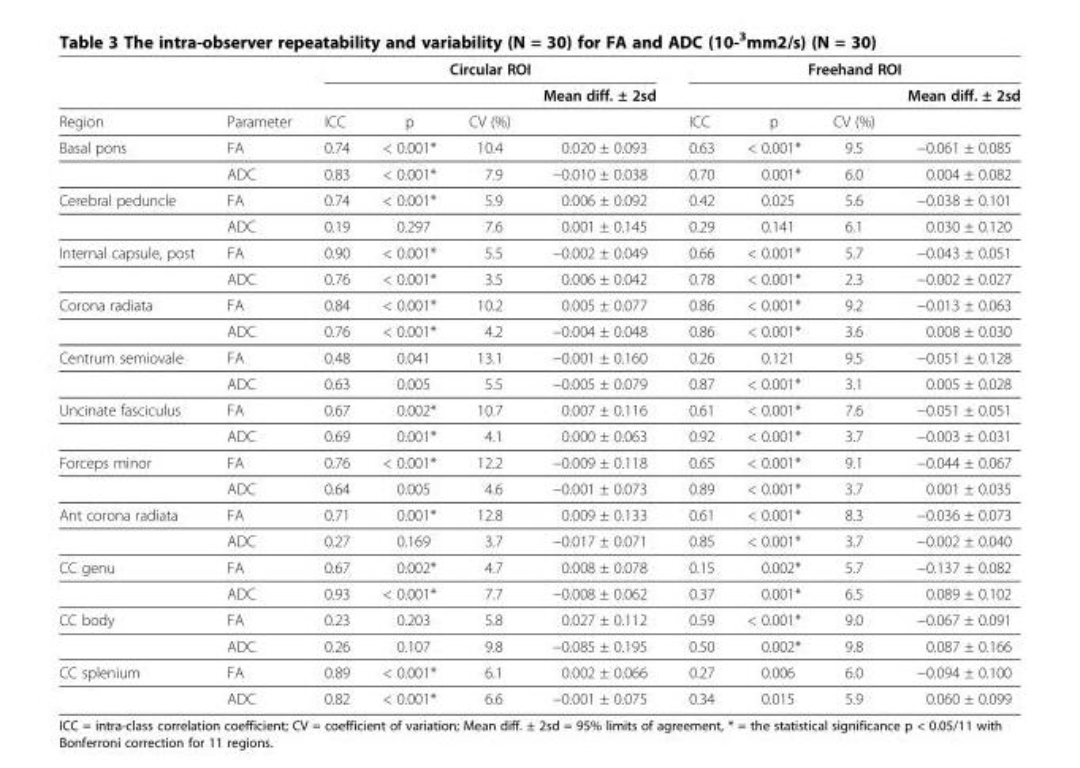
<table><thead><tr><td rowspan="2"></td><td rowspan="2"></td><td colspan="4">Circular ROI</td><td colspan="4">Freehand ROI</td></tr><tr><td></td><td></td><td></td><td>Mean diff. ± 2sd</td><td></td><td></td><td></td><td>Mean diff. ± 2sd</td></tr></thead><tbody><tr><td>Region</td><td>Parameter</td><td>ICC</td><td>p</td><td>CV (%)</td><td></td><td>ICC</td><td>p</td><td>CV (%)</td><td></td></tr><tr><td rowspan="2">Basal pons</td><td>FA</td><td>0.74</td><td>&lt; 0.001*</td><td>10.4</td><td>0.020 ± 0.093</td><td>0.63</td><td>&lt; 0.001*</td><td>9.5</td><td>−0.061 ± 0.085</td></tr><tr><td>ADC</td><td>0.83</td><td>&lt; 0.001*</td><td>7.9</td><td>−0.010 ± 0.038</td><td>0.70</td><td>0.001*</td><td>6.0</td><td>0.004 ± 0.082</td></tr><tr><td rowspan="2">Cerebral peduncle</td><td>FA</td><td>0.74</td><td>&lt; 0.001*</td><td>5.9</td><td>0.006 ± 0.092</td><td>0.42</td><td>0.025</td><td>5.6</td><td>−0.038 ± 0.101</td></tr><tr><td>ADC</td><td>0.19</td><td>0.297</td><td>7.6</td><td>0.001 ± 0.145</td><td>0.29</td><td>0.141</td><td>6.1</td><td>0.030 ± 0.120</td></tr><tr><td rowspan="2">Internal capsule, post</td><td>FA</td><td>0.90</td><td>&lt; 0.001*</td><td>5.5</td><td>−0.002 ± 0.049</td><td>0.66</td><td>&lt; 0.001*</td><td>5.7</td><td>−0.043 ± 0.051</td></tr><tr><td>ADC</td><td>0.76</td><td>&lt; 0.001*</td><td>3.5</td><td>0.006 ± 0.042</td><td>0.78</td><td>&lt; 0.001*</td><td>2.3</td><td>−0.002 ± 0.027</td></tr><tr><td rowspan="2">Corona radiata</td><td>FA</td><td>0.84</td><td>&lt; 0.001*</td><td>10.2</td><td>0.005 ± 0.077</td><td>0.86</td><td>&lt; 0.001*</td><td>9.2</td><td>−0.013 ± 0.063</td></tr><tr><td>ADC</td><td>0.76</td><td>&lt; 0.001*</td><td>4.2</td><td>−0.004 ± 0.048</td><td>0.86</td><td>&lt; 0.001*</td><td>3.6</td><td>0.008 ± 0.030</td></tr><tr><td rowspan="2">Centrum semiovale</td><td>FA</td><td>0.48</td><td>0.041</td><td>13.1</td><td>−0.001 ± 0.160</td><td>0.26</td><td>0.121</td><td>9.5</td><td>−0.051 ± 0.128</td></tr><tr><td>ADC</td><td>0.63</td><td>0.005</td><td>5.5</td><td>−0.005 ± 0.079</td><td>0.87</td><td>&lt; 0.001*</td><td>3.1</td><td>0.005 ± 0.028</td></tr><tr><td rowspan="2">Uncinate fasciculus</td><td>FA</td><td>0.67</td><td>0.002*</td><td>10.7</td><td>0.007 ± 0.116</td><td>0.61</td><td>&lt; 0.001*</td><td>7.6</td><td>−0.051 ± 0.051</td></tr><tr><td>ADC</td><td>0.69</td><td>0.001*</td><td>4.1</td><td>0.000 ± 0.063</td><td>0.92</td><td>&lt; 0.001*</td><td>3.7</td><td>−0.003 ± 0.031</td></tr><tr><td rowspan="2">Forceps minor</td><td>FA</td><td>0.76</td><td>&lt; 0.001*</td><td>12.2</td><td>−0.009 ± 0.118</td><td>0.65</td><td>&lt; 0.001*</td><td>9.1</td><td>−0.044 ± 0.067</td></tr><tr><td>ADC</td><td>0.64</td><td>0.005</td><td>4.6</td><td>−0.001 ± 0.073</td><td>0.89</td><td>&lt; 0.001*</td><td>3.7</td><td>0.001 ± 0.035</td></tr><tr><td rowspan="2">Ant corona radiata</td><td>FA</td><td>0.71</td><td>0.001*</td><td>12.8</td><td>0.009 ± 0.133</td><td>0.61</td><td>&lt; 0.001*</td><td>8.3</td><td>−0.036 ± 0.073</td></tr><tr><td>ADC</td><td>0.27</td><td>0.169</td><td>3.7</td><td>−0.017 ± 0.071</td><td>0.85</td><td>&lt; 0.001*</td><td>3.7</td><td>−0.002 ± 0.040</td></tr><tr><td rowspan="2">CC genu</td><td>FA</td><td>0.67</td><td>0.002*</td><td>4.7</td><td>0.008 ± 0.078</td><td>0.15</td><td>0.002*</td><td>5.7</td><td>−0.137 ± 0.082</td></tr><tr><td>ADC</td><td>0.93</td><td>&lt; 0.001*</td><td>7.7</td><td>−0.008 ± 0.062</td><td>0.37</td><td>0.001*</td><td>6.5</td><td>0.089 ± 0.102</td></tr><tr><td rowspan="2">CC body</td><td>FA</td><td>0.23</td><td>0.203</td><td>5.8</td><td>0.027 ± 0.112</td><td>0.59</td><td>&lt; 0.001*</td><td>9.0</td><td>−0.067 ± 0.091</td></tr><tr><td>ADC</td><td>0.26</td><td>0.107</td><td>9.8</td><td>−0.085 ± 0.195</td><td>0.50</td><td>0.002*</td><td>9.8</td><td>0.087 ± 0.166</td></tr><tr><td rowspan="2">CC splenium</td><td>FA</td><td>0.89</td><td>&lt; 0.001*</td><td>6.1</td><td>0.002 ± 0.066</td><td>0.27</td><td>0.006</td><td>6.0</td><td>−0.094 ± 0.100</td></tr><tr><td>ADC</td><td>0.82</td><td>&lt; 0.001*</td><td>6.6</td><td>−0.001 ± 0.075</td><td>0.34</td><td>0.015</td><td>5.9</td><td>0.060 ± 0.099</td></tr></tbody></table>